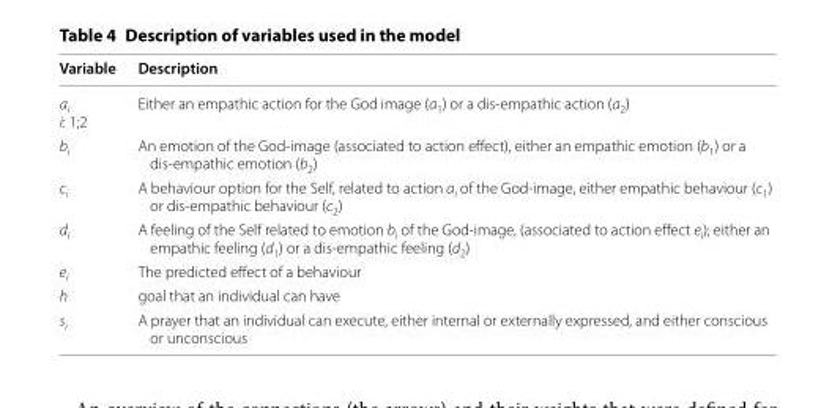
<table><thead><tr><td>Variable</td><td>Description</td></tr></thead><tbody><tr><td>a<sub>i</sub> i: 1;2</td><td>Either an empathic action for the God image (a<sub>1</sub>) or a dis-empathic action (a<sub>2</sub>)</td></tr><tr><td>b<sub>i</sub></td><td>An emotion of the God-image (associated to action effect), either an empathic emotion (b<sub>1</sub>) or a dis-empathic emotion (b<sub>2</sub>)</td></tr><tr><td>c<sub>i</sub></td><td>A behaviour option for the Self, related to action a<sub>i</sub> of the God-image, either empathic behaviour (c<sub>1</sub>) or dis-empathic behaviour (c<sub>2</sub>)</td></tr><tr><td>d<sub>i</sub></td><td>A feeling of the Self related to emotion b<sub>i</sub> of the God-image, (associated to action effect e<sub>i</sub>); either an empathic feeling (d<sub>1</sub>) or a dis-empathic feeling (d<sub>2</sub>)</td></tr><tr><td>e<sub>i</sub></td><td>The predicted effect of a behaviour</td></tr><tr><td>h</td><td>goal that an individual can have</td></tr><tr><td>s<sub>i</sub></td><td>A prayer that an individual can execute, either internal or externally expressed, and either conscious or unconscious</td></tr></tbody></table>